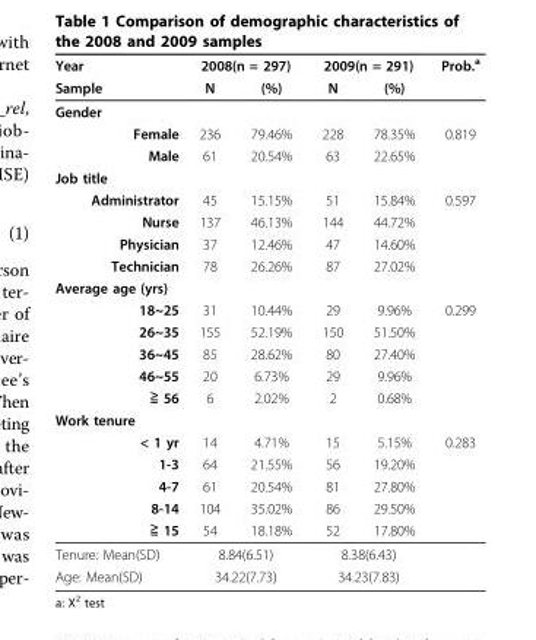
<table><thead><tr><td rowspan="2">Year Sample</td><td colspan="2">2008(n = 297)</td><td colspan="2">2009(n = 291)</td><td rowspan="2">Prob.<sup>a</sup></td></tr><tr><td>N</td><td>(%)</td><td>N</td><td>(%)</td></tr></thead><tbody><tr><td colspan="6">Gender</td></tr><tr><td>Female</td><td>236</td><td>79.46%</td><td>228</td><td>78.35%</td><td>0.819</td></tr><tr><td>Male</td><td>61</td><td>20.54%</td><td>63</td><td>22.65%</td><td></td></tr><tr><td colspan="6">Job title</td></tr><tr><td>Administrator</td><td>45</td><td>15.15%</td><td>51</td><td>15.84%</td><td>0.597</td></tr><tr><td>Nurse</td><td>137</td><td>46.13%</td><td>144</td><td>44.72%</td><td></td></tr><tr><td>Physician</td><td>37</td><td>12.46%</td><td>47</td><td>14.60%</td><td></td></tr><tr><td>Technician</td><td>78</td><td>26.26%</td><td>87</td><td>27.02%</td><td></td></tr><tr><td colspan="6">Average age (yrs)</td></tr><tr><td>18~25</td><td>31</td><td>10.44%</td><td>29</td><td>9.96%</td><td>0.299</td></tr><tr><td>26~35</td><td>155</td><td>52.19%</td><td>150</td><td>51.50%</td><td></td></tr><tr><td>36~45</td><td>85</td><td>28.62%</td><td>80</td><td>27.40%</td><td></td></tr><tr><td>46~55</td><td>20</td><td>6.73%</td><td>29</td><td>9.96%</td><td></td></tr><tr><td>≧ 56</td><td>6</td><td>2.02%</td><td>2</td><td>0.68%</td><td></td></tr><tr><td colspan="6">Work tenure</td></tr><tr><td>&lt; 1 yr</td><td>14</td><td>4.71%</td><td>15</td><td>5.15%</td><td>0.283</td></tr><tr><td>1-3</td><td>64</td><td>21.55%</td><td>56</td><td>19.20%</td><td></td></tr><tr><td>4-7</td><td>61</td><td>20.54%</td><td>81</td><td>27.80%</td><td></td></tr><tr><td>8-14</td><td>104</td><td>35.02%</td><td>86</td><td>29.50%</td><td></td></tr><tr><td>≧ 15</td><td>54</td><td>18.18%</td><td>52</td><td>17.80%</td><td></td></tr><tr><td>Tenure: Mean(SD)</td><td colspan="2">8.84(6.51)</td><td colspan="2">8.38(6.43)</td><td></td></tr><tr><td>Age: Mean(SD)</td><td colspan="2">34.22(7.73)</td><td colspan="2">34.23(7.83)</td><td></td></tr></tbody></table>